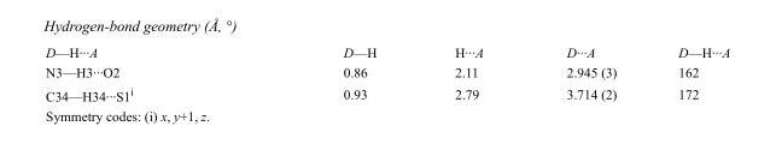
<table><tbody><tr><td>D—H···A</td><td>D—H</td><td>H···A</td><td>D···A</td><td>D—H···A</td></tr><tr><td>N3—H3···O2</td><td>0.86</td><td>2.11</td><td>2.945 (3)</td><td>162</td></tr><tr><td>C34—H34···S1<sup>i</sup></td><td>0.93</td><td>2.79</td><td>3.714 (2)</td><td>172</td></tr></tbody></table>